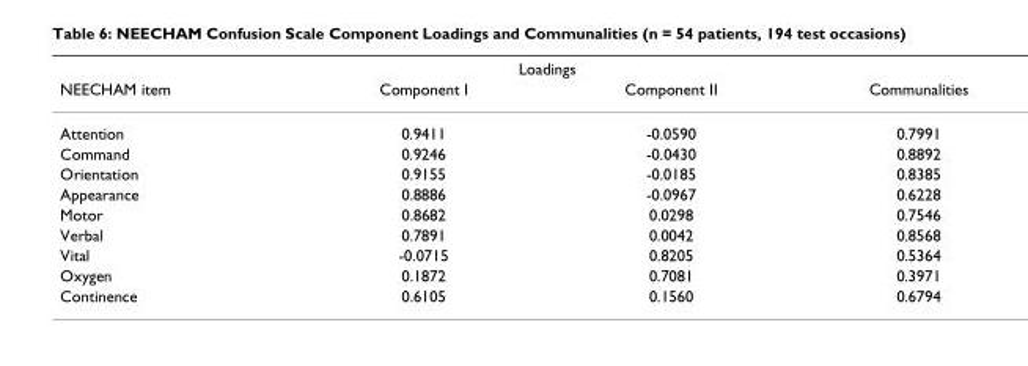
<table><thead><tr><td rowspan="2">NEECHAM item</td><td colspan="2">Loadings</td><td rowspan="2">Communalities</td></tr><tr><td>Component I</td><td>Component II</td></tr></thead><tbody><tr><td>Attention</td><td>0.9411</td><td>-0.0590</td><td>0.7991</td></tr><tr><td>Command</td><td>0.9246</td><td>-0.0430</td><td>0.8892</td></tr><tr><td>Orientation</td><td>0.9155</td><td>-0.0185</td><td>0.8385</td></tr><tr><td>Appearance</td><td>0.8886</td><td>-0.0967</td><td>0.6228</td></tr><tr><td>Motor</td><td>0.8682</td><td>0.0298</td><td>0.7546</td></tr><tr><td>Verbal</td><td>0.7891</td><td>0.0042</td><td>0.8568</td></tr><tr><td>Vital</td><td>-0.0715</td><td>0.8205</td><td>0.5364</td></tr><tr><td>Oxygen</td><td>0.1872</td><td>0.7081</td><td>0.3971</td></tr><tr><td>Continence</td><td>0.6105</td><td>0.1560</td><td>0.6794</td></tr></tbody></table>